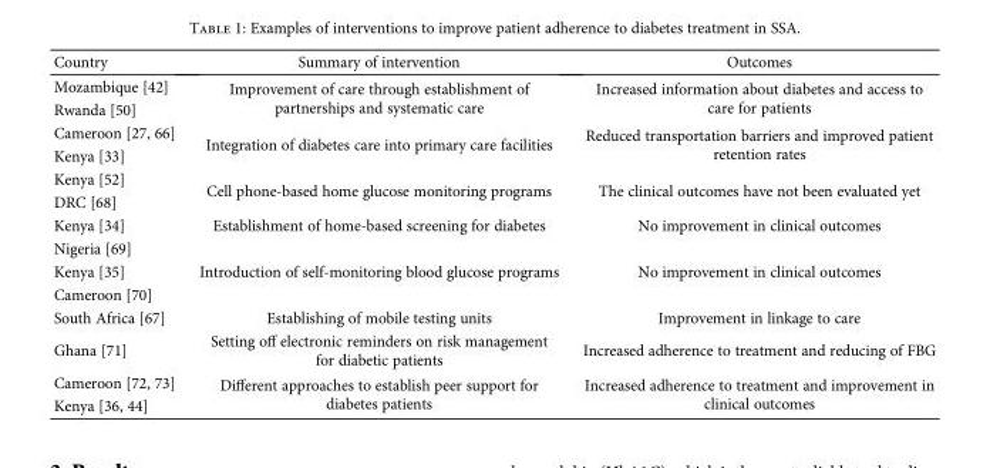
<table><thead><tr><td>Country</td><td>Summary of intervention</td><td>Outcomes</td></tr></thead><tbody><tr><td>Mozambique [42]</td><td rowspan="2">Improvement of care through establishment of partnerships and systematic care</td><td rowspan="2">Increased information about diabetes and access to care for patients</td></tr><tr><td>Rwanda [50]</td></tr><tr><td>Cameroon [27, 66]</td><td rowspan="2">Integration of diabetes care into primary care facilities</td><td rowspan="2">Reduced transportation barriers and improved patient retention rates</td></tr><tr><td>Kenya [33]</td></tr><tr><td>Kenya [52]</td><td rowspan="2">Cell phone-based home glucose monitoring programs</td><td rowspan="2">The clinical outcomes have not been evaluated yet</td></tr><tr><td>DRC [68]</td></tr><tr><td>Kenya [34]</td><td>Establishment of home-based screening for diabetes</td><td>No improvement in clinical outcomes</td></tr><tr><td>Nigeria [69]</td><td rowspan="3">Introduction of self-monitoring blood glucose programs</td><td rowspan="3">No improvement in clinical outcomes</td></tr><tr><td>Kenya [35]</td></tr><tr><td>Cameroon [70]</td></tr><tr><td>South Africa [67]</td><td>Establishing of mobile testing units</td><td>Improvement in linkage to care</td></tr><tr><td>Ghana [71]</td><td>Setting off electronic reminders on risk management for diabetic patients</td><td>Increased adherence to treatment and reducing of FBG</td></tr><tr><td>Cameroon [72, 73]</td><td rowspan="2">Different approaches to establish peer support for diabetes patients</td><td rowspan="2">Increased adherence to treatment and improvement in clinical outcomes</td></tr><tr><td>Kenya [36, 44]</td></tr></tbody></table>